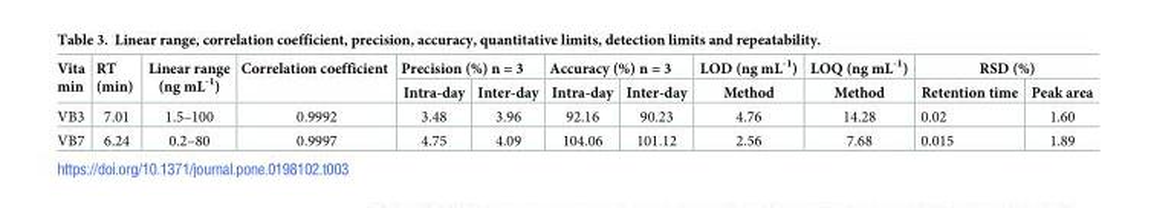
<table><thead><tr><td rowspan="2">Vita min</td><td rowspan="2">RT (min)</td><td rowspan="2">Linear range (ng mL<sup>-1</sup>)</td><td rowspan="2">Correlation coefficient</td><td colspan="2">Precision (%) n = 3</td><td colspan="2">Accuracy (%) n = 3</td><td rowspan="2">LOD (ng mL<sup>-1</sup>) Method</td><td rowspan="2">LOQ (ng mL<sup>-1</sup>) Method</td><td colspan="2">RSD (%)</td></tr><tr><td>Intra-day</td><td>Inter-day</td><td>Intra-day</td><td>Inter-day</td><td>Retention time</td><td>Peak area</td></tr></thead><tbody><tr><td>VB3</td><td>7.01</td><td>1.5–100</td><td>0.9992</td><td>3.48</td><td>3.96</td><td>92.16</td><td>90.23</td><td>4.76</td><td>14.28</td><td>0.02</td><td>1.60</td></tr><tr><td>VB7</td><td>6.24</td><td>0.2–80</td><td>0.9997</td><td>4.75</td><td>4.09</td><td>104.06</td><td>101.12</td><td>2.56</td><td>7.68</td><td>0.015</td><td>1.89</td></tr></tbody></table>